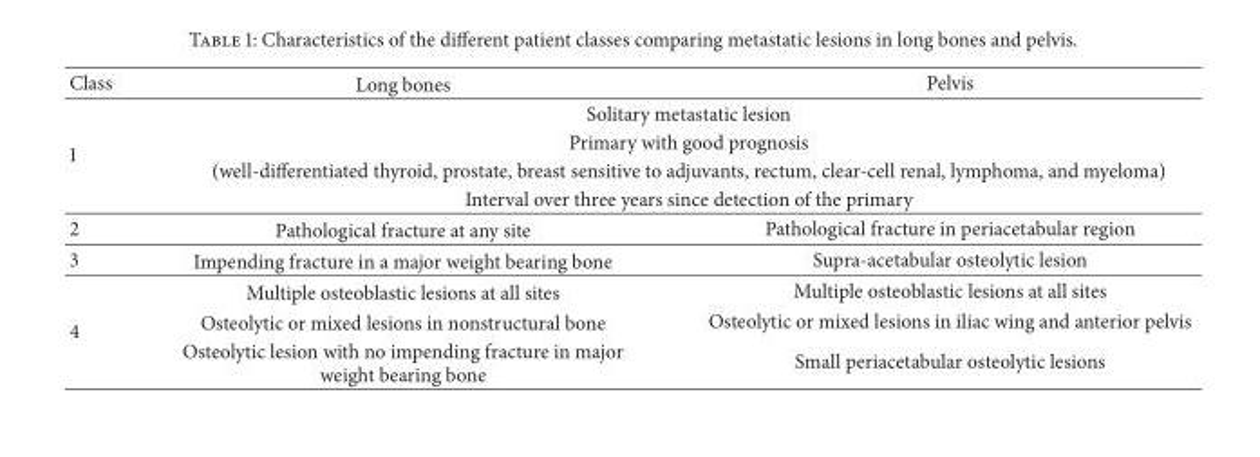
<table><thead><tr><td>Class</td><td>Long bones</td><td>Pelvis</td></tr></thead><tbody><tr><td rowspan="4">1</td><td colspan="2">Solitary metastatic lesion</td></tr><tr><td colspan="2">Primary with good prognosis</td></tr><tr><td colspan="2">(well-differentiated thyroid, prostate, breast sensitive to adjuvants, rectum, clear-cell renal, lymphoma, and myeloma)</td></tr><tr><td colspan="2">Interval over three years since detection of the primary</td></tr><tr><td>2</td><td>Pathological fracture at any site</td><td>Pathological fracture in periacetabular region</td></tr><tr><td>3</td><td>Impending fracture in a major weight bearing bone</td><td>Supra-acetabular osteolytic lesion</td></tr><tr><td rowspan="3">4</td><td>Multiple osteoblastic lesions at all sites</td><td>Multiple osteoblastic lesions at all sites</td></tr><tr><td>Osteolytic or mixed lesions in nonstructural bone</td><td>Osteolytic or mixed lesions in iliac wing and anterior pelvis</td></tr><tr><td>Osteolytic lesion with no impending fracture in major weight bearing bone</td><td>Small periacetabular osteolytic lesions</td></tr></tbody></table>